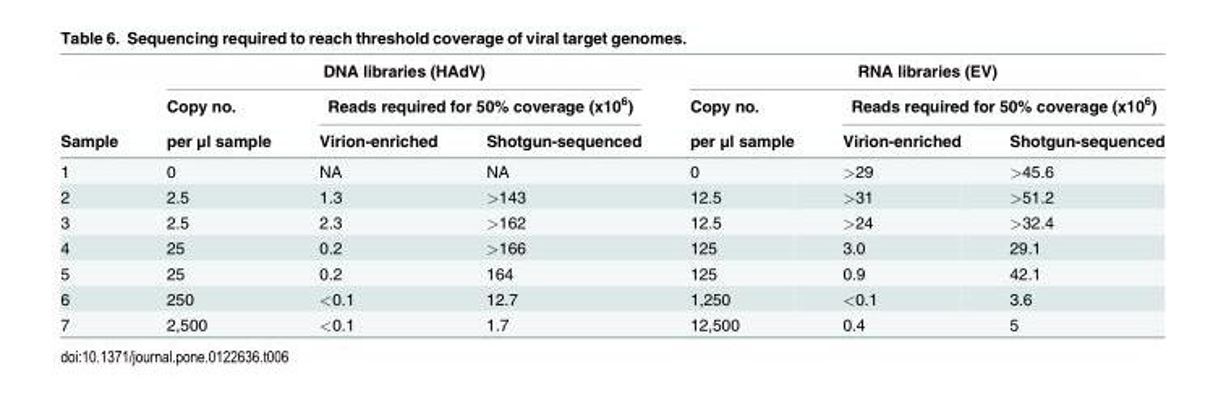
<table><thead><tr><td rowspan="3">Sample</td><td colspan="3">DNA libraries (HAdV)</td><td colspan="3">RNA libraries (EV)</td></tr><tr><td rowspan="2">Copy no. per μl sample</td><td colspan="2">Reads required for 50% coverage (x10<sup>6</sup>)</td><td rowspan="2">Copy no. per μl sample</td><td colspan="2">Reads required for 50% coverage (x10<sup>6</sup>)</td></tr><tr><td>Virion-enriched</td><td>Shotgun-sequenced</td><td>Virion-enriched</td><td>Shotgun-sequenced</td></tr></thead><tbody><tr><td>1</td><td>0</td><td>NA</td><td>NA</td><td>0</td><td>&gt;29</td><td>&gt;45.6</td></tr><tr><td>2</td><td>2.5</td><td>1.3</td><td>&gt;143</td><td>12.5</td><td>&gt;31</td><td>&gt;51.2</td></tr><tr><td>3</td><td>2.5</td><td>2.3</td><td>&gt;162</td><td>12.5</td><td>&gt;24</td><td>&gt;32.4</td></tr><tr><td>4</td><td>25</td><td>0.2</td><td>&gt;166</td><td>125</td><td>3.0</td><td>29.1</td></tr><tr><td>5</td><td>25</td><td>0.2</td><td>164</td><td>125</td><td>0.9</td><td>42.1</td></tr><tr><td>6</td><td>250</td><td>&lt;0.1</td><td>12.7</td><td>1,250</td><td>&lt;0.1</td><td>3.6</td></tr><tr><td>7</td><td>2,500</td><td>&lt;0.1</td><td>1.7</td><td>12,500</td><td>0.4</td><td>5</td></tr></tbody></table>